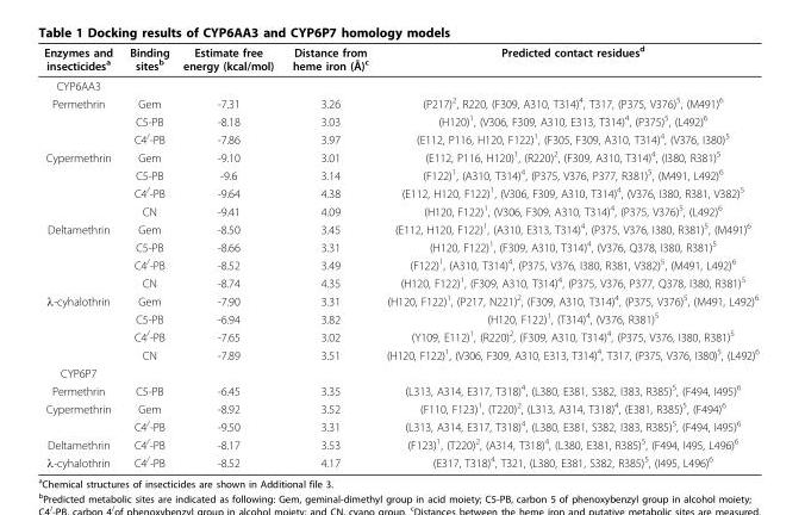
<table><thead><tr><td>Enzymes and insecticides<sup>a</sup></td><td>Binding sites<sup>b</sup></td><td>Estimate free energy (kcal/mol)</td><td>Distance from heme iron (Å)<sup>c</sup></td><td>Predicted contact residues<sup>d</sup></td></tr></thead><tbody><tr><td colspan="5">CYP6AA3</td></tr><tr><td rowspan="3">Permethrin</td><td>Gem</td><td>-7.31</td><td>3.26</td><td>(P217)<sup>2</sup>, R220, (F309, A310, T314)<sup>4</sup>, T317, (P375, V376)<sup>5</sup>, (M491)<sup>6</sup></td></tr><tr><td>C5-PB</td><td>-8.18</td><td>3.03</td><td>(H120)<sup>1</sup>, (V306, F309, A310, E313, T314)<sup>4</sup>, (P375)<sup>5</sup>, (L492)<sup>6</sup></td></tr><tr><td>C4<sup>/</sup>-PB</td><td>-7.86</td><td>3.97</td><td>(E112, P116, H120, F122)<sup>1</sup>, (F305, F309, A310, T314)<sup>4</sup>, (V376, I380)<sup>5</sup></td></tr><tr><td rowspan="4">Cypermethrin</td><td>Gem</td><td>-9.10</td><td>3.01</td><td>(E112, P116, H120)<sup>1</sup>, (R220)<sup>2</sup>, (F309, A310, T314)<sup>4</sup>, (I380, R381)<sup>5</sup></td></tr><tr><td>C5-PB</td><td>-9.6</td><td>3.14</td><td>(F122)<sup>1</sup>, (A310, T314)<sup>4</sup>, (P375, V376, P377, R381)<sup>5</sup>, (M491, L492)<sup>6</sup></td></tr><tr><td>C4<sup>/</sup>-PB</td><td>-9.64</td><td>4.38</td><td>(E112, H120, F122)<sup>1</sup>, (V306, F309, A310, T314)<sup>4</sup>, (V376, I380, R381, V382)<sup>5</sup></td></tr><tr><td>CN</td><td>-9.41</td><td>4.09</td><td>(H120, F122)<sup>1</sup>, (V306, F309, A310, T314)<sup>4</sup>, (P375, V376)<sup>5</sup>, (L492)<sup>6</sup></td></tr><tr><td rowspan="4">Deltamethrin</td><td>Gem</td><td>-8.50</td><td>3.45</td><td>(E112, H120, F122)<sup>1</sup>, (A310, E313, T314)<sup>4</sup>, (P375, V376, I380, R381)<sup>5</sup>, (M491)<sup>6</sup></td></tr><tr><td>C5-PB</td><td>-8.66</td><td>3.31</td><td>(H120, F122)<sup>1</sup>, (F309, A310, T314)<sup>4</sup>, (V376, Q378, I380, R381)<sup>5</sup></td></tr><tr><td>C4<sup>/</sup>-PB</td><td>-8.52</td><td>3.49</td><td>(F122)<sup>1</sup>, (A310, T314)<sup>4</sup>, (P375, V376, I380, R381, V382)<sup>5</sup>, (M491, L492)<sup>6</sup></td></tr><tr><td>CN</td><td>-8.74</td><td>4.35</td><td>(H120, F122)<sup>1</sup>, (F309, A310, T314)<sup>4</sup>, (P375, V376, P377, Q378, I380, R381)<sup>5</sup></td></tr><tr><td rowspan="4">λ-cyhalothrin</td><td>Gem</td><td>-7.90</td><td>3.31</td><td>(H120, F122)<sup>1</sup>, (P217, N221)<sup>2</sup>, (F309, A310, T314)<sup>4</sup>, (P375, V376)<sup>5</sup>, (M491, L492)<sup>6</sup></td></tr><tr><td>C5-PB</td><td>-6.94</td><td>3.82</td><td>(H120, F122)<sup>1</sup>, (T314)<sup>4</sup>, (V376, R381)<sup>5</sup></td></tr><tr><td>C4<sup>/</sup>-PB</td><td>-7.65</td><td>3.02</td><td>(Y109, E112)<sup>1</sup>, (R220)<sup>2</sup>, (F309, A310, T314)<sup>4</sup>, (P375, V376, I380, R381)<sup>5</sup></td></tr><tr><td>CN</td><td>-7.89</td><td>3.51</td><td>(H120, F122)<sup>1</sup>, (V306, F309, A310, E313, T314)<sup>4</sup>, T317, (P375, V376, I380)<sup>5</sup>, (L492)<sup>6</sup></td></tr><tr><td colspan="5">CYP6P7</td></tr><tr><td>Permethrin</td><td>C5-PB</td><td>-6.45</td><td>3.35</td><td>(L313, A314, E317, T318)<sup>4</sup>, (L380, E381, S382, I383, R385)<sup>5</sup>, (F494, I495)<sup>6</sup></td></tr><tr><td rowspan="2">Cypermethrin</td><td>Gem</td><td>-8.92</td><td>3.52</td><td>(F110, F123)<sup>1</sup>, (T220)<sup>2</sup>, (L313, A314, T318)<sup>4</sup>, (E381, R385)<sup>5</sup>, (F494)<sup>6</sup></td></tr><tr><td>C4<sup>/</sup>-PB</td><td>-9.50</td><td>3.31</td><td>(L313, A314, E317, T318)<sup>4</sup>, (L380, E381, S382, I383, R385)<sup>5</sup>, (F494, I495)<sup>6</sup></td></tr><tr><td>Deltamethrin</td><td>C4<sup>/</sup>-PB</td><td>-8.17</td><td>3.53</td><td>(F123)<sup>1</sup>, (T220)<sup>2</sup>, (A314, T318)<sup>4</sup>, (L380, E381, R385)<sup>5</sup>, (F494, I495, L496)<sup>6</sup></td></tr><tr><td>λ-cyhalothrin</td><td>C4<sup>/</sup>-PB</td><td>-8.52</td><td>4.17</td><td>(E317, T318)<sup>4</sup>, T321, (L380, E381, S382, R385)<sup>5</sup>, (I495, L496)<sup>6</sup></td></tr></tbody></table>